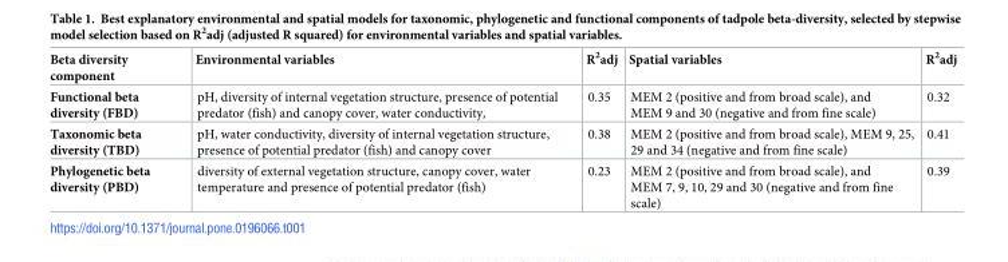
<table><thead><tr><td>Beta diversity component</td><td>Environmental variables</td><td>R<sup>2</sup>adj</td><td>Spatial variables</td><td>R<sup>2</sup>adj</td></tr></thead><tbody><tr><td>Functional beta diversity (FBD)</td><td>pH, diversity of internal vegetation structure, presence of potential predator (fish) and canopy cover, water conductivity,</td><td>0.35</td><td>MEM 2 (positive and from broad scale), and MEM 9 and 30 (negative and from fine scale)</td><td>0.32</td></tr><tr><td>Taxonomic beta diversity (TBD)</td><td>pH, water conductivity, diversity of internal vegetation structure, presence of potential predator (fish) and canopy cover</td><td>0.38</td><td>MEM 2 (positive and from broad scale), MEM 9, 25, 29 and 34 (negative and from fine scale)</td><td>0.41</td></tr><tr><td>Phylogenetic beta diversity (PBD)</td><td>diversity of external vegetation structure, canopy cover, water temperature and presence of potential predator (fish)</td><td>0.23</td><td>MEM 2 (positive and from broad scale), and MEM 7, 9, 10, 29 and 30 (negative and from fine scale)</td><td>0.39</td></tr></tbody></table>